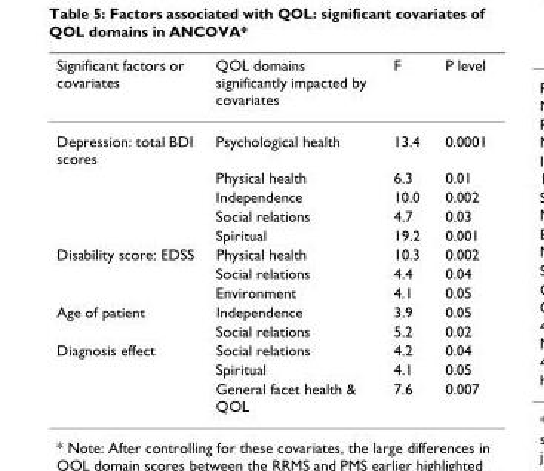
<table><thead><tr><td>Significant factors or covariates</td><td>QOL domains significantly impacted by covariates</td><td>F</td><td>P level</td></tr></thead><tbody><tr><td rowspan="5">Depression: total BDI scores</td><td>Psychological health</td><td>13.4</td><td>0.0001</td></tr><tr><td>Physical health</td><td>6.3</td><td>0.01</td></tr><tr><td>Independence</td><td>10.0</td><td>0.002</td></tr><tr><td>Social relations</td><td>4.7</td><td>0.03</td></tr><tr><td>Spiritual</td><td>19.2</td><td>0.001</td></tr><tr><td rowspan="3">Disability score: EDSS</td><td>Physical health</td><td>10.3</td><td>0.002</td></tr><tr><td>Social relations</td><td>4.4</td><td>0.04</td></tr><tr><td>Environment</td><td>4.1</td><td>0.05</td></tr><tr><td rowspan="2">Age of patient</td><td>Independence</td><td>3.9</td><td>0.05</td></tr><tr><td>Social relations</td><td>5.2</td><td>0.02</td></tr><tr><td rowspan="3">Diagnosis effect</td><td>Social relations</td><td>4.2</td><td>0.04</td></tr><tr><td>Spiritual</td><td>4.1</td><td>0.05</td></tr><tr><td>General facet health &amp; QOL</td><td>7.6</td><td>0.007</td></tr></tbody></table>